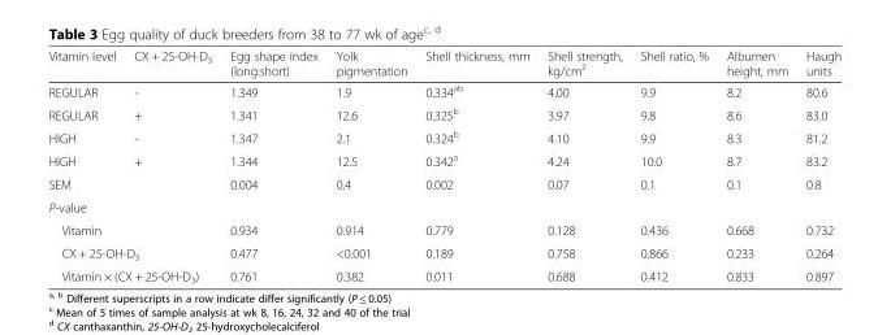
<table><thead><tr><td>Vitamin level</td><td>CX + 25-OH-D<sub>3</sub></td><td>Egg shape index (long:short)</td><td>Yolk pigmentation</td><td>Shell thickness, mm</td><td>Shell strength, kg/cm<sup>2</sup></td><td>Shell ratio, %</td><td>Albumen height, mm</td><td>Haugh units</td></tr></thead><tbody><tr><td>REGULAR</td><td>-</td><td>1.349</td><td>1.9</td><td>0.334<sup>ab</sup></td><td>4.00</td><td>9.9</td><td>8.2</td><td>80.6</td></tr><tr><td>REGULAR</td><td>+</td><td>1.341</td><td>12.6</td><td>0.325<sup>b</sup></td><td>3.97</td><td>9.8</td><td>8.6</td><td>83.0</td></tr><tr><td>HIGH</td><td>-</td><td>1.347</td><td>2.1</td><td>0.324<sup>b</sup></td><td>4.10</td><td>9.9</td><td>8.3</td><td>81.2</td></tr><tr><td>HIGH</td><td>+</td><td>1.344</td><td>12.5</td><td>0.342<sup>a</sup></td><td>4.24</td><td>10.0</td><td>8.7</td><td>83.2</td></tr><tr><td>SEM</td><td></td><td>0.004</td><td>0.4</td><td>0.002</td><td>0.07</td><td>0.1</td><td>0.1</td><td>0.8</td></tr><tr><td colspan="9">P-value</td></tr><tr><td colspan="2">Vitamin</td><td>0.934</td><td>0.914</td><td>0.779</td><td>0.128</td><td>0.436</td><td>0.668</td><td>0.732</td></tr><tr><td colspan="2">CX + 25-OH-D<sub>3</sub></td><td>0.477</td><td>&lt;0.001</td><td>0.189</td><td>0.758</td><td>0.866</td><td>0.233</td><td>0.264</td></tr><tr><td colspan="2">Vitamin × (CX + 25-OH-D<sub>3</sub>)</td><td>0.761</td><td>0.382</td><td>0.011</td><td>0.688</td><td>0.412</td><td>0.833</td><td>0.897</td></tr></tbody></table>